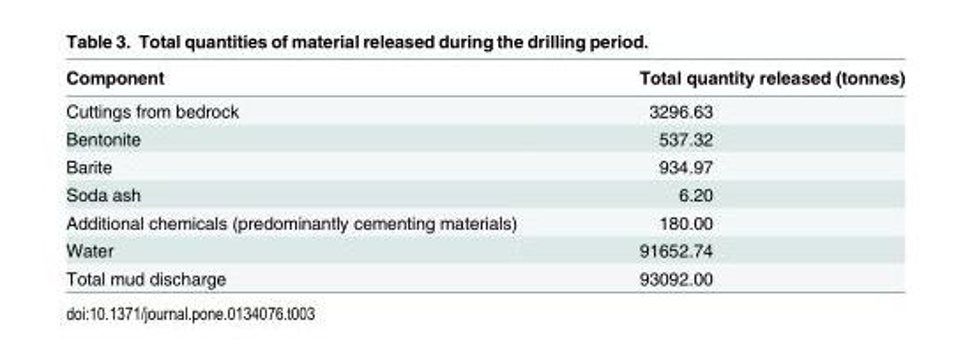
<table><thead><tr><td>Component</td><td>Total quantity released (tonnes)</td></tr></thead><tbody><tr><td>Cuttings from bedrock</td><td>3296.63</td></tr><tr><td>Bentonite</td><td>537.32</td></tr><tr><td>Barite</td><td>934.97</td></tr><tr><td>Soda ash</td><td>6.20</td></tr><tr><td>Additional chemicals (predominantly cementing materials)</td><td>180.00</td></tr><tr><td>Water</td><td>91652.74</td></tr><tr><td>Total mud discharge</td><td>93092.00</td></tr></tbody></table>